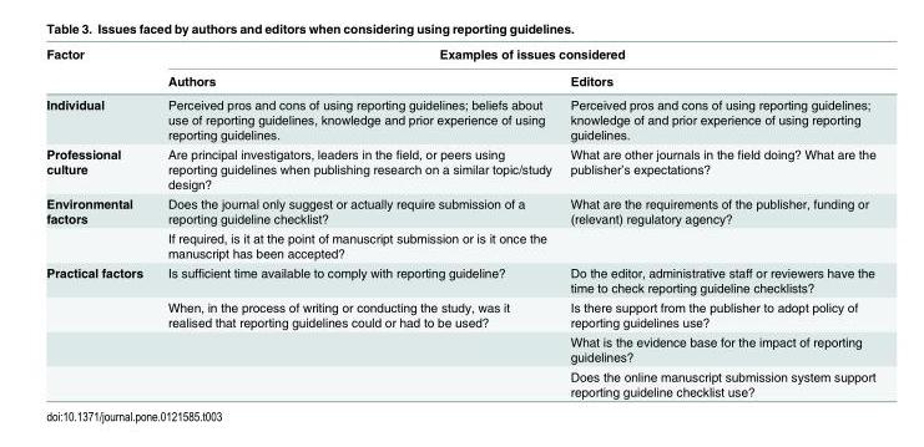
<table><thead><tr><td rowspan="2">Factor</td><td colspan="2">Examples of issues considered</td></tr><tr><td>Authors</td><td>Editors</td></tr></thead><tbody><tr><td>Individual</td><td>Perceived pros and cons of using reporting guidelines; beliefs about use of reporting guidelines, knowledge and prior experience of using reporting guidelines.</td><td>Perceived pros and cons of using reporting guidelines; knowledge of and prior experience of using reporting guidelines.</td></tr><tr><td>Professional culture</td><td>Are principal investigators, leaders in the field, or peers using reporting guidelines when publishing research on a similar topic/study design?</td><td>What are other journals in the field doing? What are the publisher’s expectations?</td></tr><tr><td rowspan="2">Environmental factors</td><td>Does the journal only suggest or actually require submission of a reporting guideline checklist?</td><td>What are the requirements of the publisher, funding or (relevant) regulatory agency?</td></tr><tr><td>If required, is it at the point of manuscript submission or is it once the manuscript has been accepted?</td><td></td></tr><tr><td rowspan="4">Practical factors</td><td>Is sufficient time available to comply with reporting guideline?</td><td>Do the editor, administrative staff or reviewers have the time to check reporting guideline checklists?</td></tr><tr><td>When, in the process of writing or conducting the study, was it realised that reporting guidelines could or had to be used?</td><td>Is there support from the publisher to adopt policy of reporting guidelines use?</td></tr><tr><td></td><td>What is the evidence base for the impact of reporting guidelines?</td></tr><tr><td></td><td>Does the online manuscript submission system support reporting guideline checklist use?</td></tr></tbody></table>